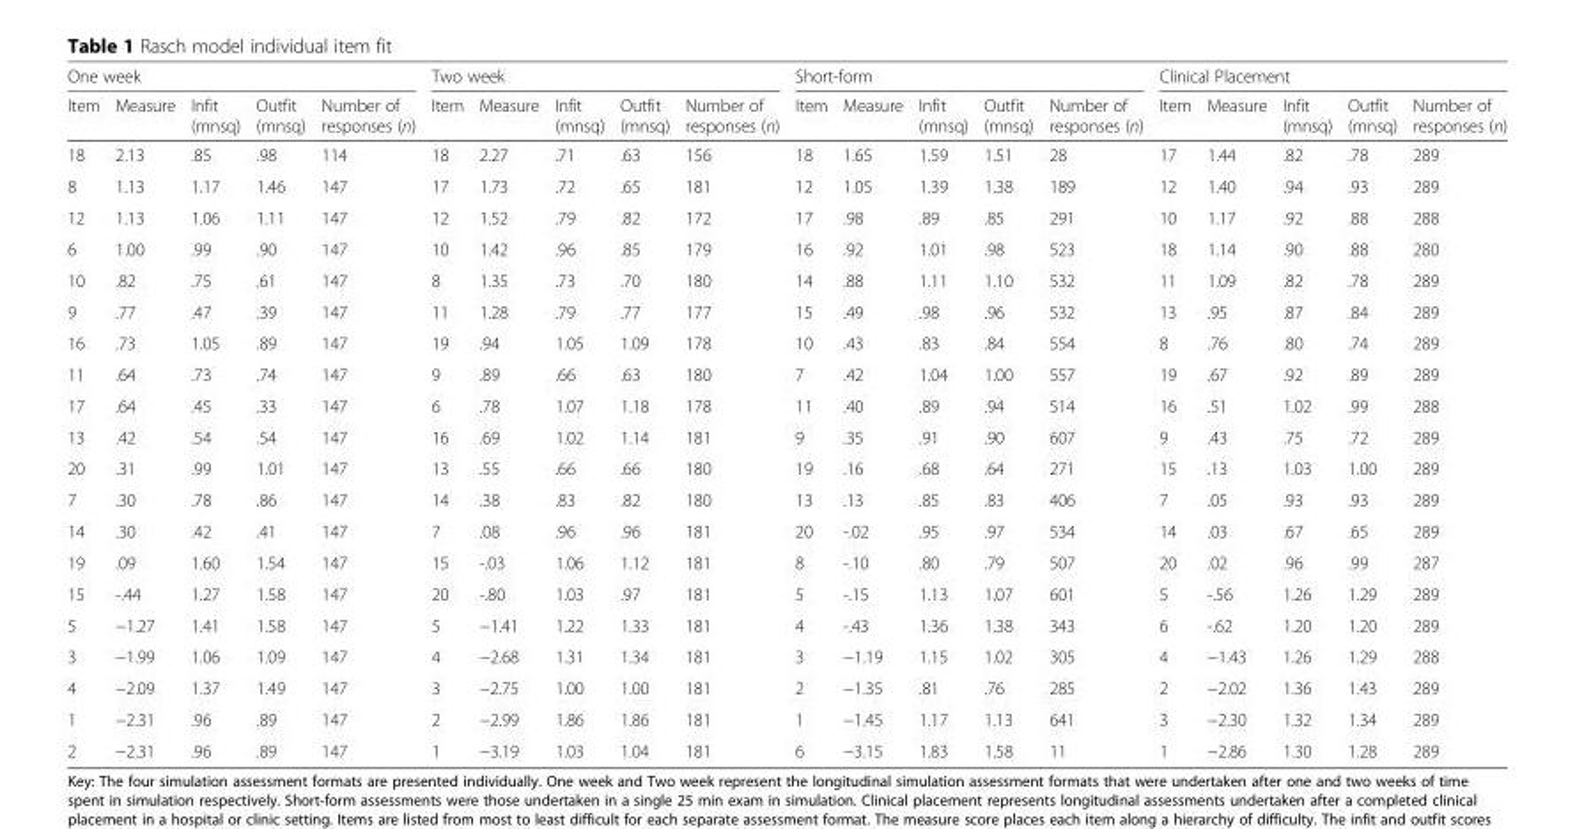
<table><thead><tr><td colspan="5">One week</td><td colspan="5">Two week</td><td colspan="5">Short-form</td><td colspan="5">Clinical Placement</td></tr><tr><td>Item</td><td>Measure</td><td>Infit (mnsq)</td><td>Outfit (mnsq)</td><td>Number of responses (n)</td><td>Item</td><td>Measure</td><td>Infit (mnsq)</td><td>Outfit (mnsq)</td><td>Number of responses (n)</td><td>Item</td><td>Measure</td><td>Infit (mnsq)</td><td>Outfit (mnsq)</td><td>Number of responses (n)</td><td>Item</td><td>Measure</td><td>Infit (mnsq)</td><td>Outfit (mnsq)</td><td>Number of responses (n)</td></tr></thead><tbody><tr><td>18</td><td>2.13</td><td>.85</td><td>.98</td><td>114</td><td>18</td><td>2.27</td><td>.71</td><td>.63</td><td>156</td><td>18</td><td>1.65</td><td>1.59</td><td>1.51</td><td>28</td><td>17</td><td>1.44</td><td>.82</td><td>.78</td><td>289</td></tr><tr><td>8</td><td>1.13</td><td>1.17</td><td>1.46</td><td>147</td><td>17</td><td>1.73</td><td>.72</td><td>.65</td><td>181</td><td>12</td><td>1.05</td><td>1.39</td><td>1.38</td><td>189</td><td>12</td><td>1.40</td><td>.94</td><td>.93</td><td>289</td></tr><tr><td>12</td><td>1.13</td><td>1.06</td><td>1.11</td><td>147</td><td>12</td><td>1.52</td><td>.79</td><td>.82</td><td>172</td><td>17</td><td>.98</td><td>.89</td><td>.85</td><td>291</td><td>10</td><td>1.17</td><td>.92</td><td>.88</td><td>288</td></tr><tr><td>6</td><td>1.00</td><td>.99</td><td>.90</td><td>147</td><td>10</td><td>1.42</td><td>.96</td><td>.85</td><td>179</td><td>16</td><td>.92</td><td>1.01</td><td>.98</td><td>523</td><td>18</td><td>1.14</td><td>.90</td><td>.88</td><td>280</td></tr><tr><td>10</td><td>.82</td><td>.75</td><td>.61</td><td>147</td><td>8</td><td>1.35</td><td>.73</td><td>.70</td><td>180</td><td>14</td><td>.88</td><td>1.11</td><td>1.10</td><td>532</td><td>11</td><td>1.09</td><td>.82</td><td>.78</td><td>289</td></tr><tr><td>9</td><td>.77</td><td>.47</td><td>.39</td><td>147</td><td>11</td><td>1.28</td><td>.79</td><td>.77</td><td>177</td><td>15</td><td>.49</td><td>.98</td><td>.96</td><td>532</td><td>13</td><td>.95</td><td>.87</td><td>.84</td><td>289</td></tr><tr><td>16</td><td>.73</td><td>1.05</td><td>.89</td><td>147</td><td>19</td><td>.94</td><td>1.05</td><td>1.09</td><td>178</td><td>10</td><td>.43</td><td>.83</td><td>.84</td><td>554</td><td>8</td><td>.76</td><td>.80</td><td>.74</td><td>289</td></tr><tr><td>11</td><td>.64</td><td>.73</td><td>.74</td><td>147</td><td>9</td><td>.89</td><td>.66</td><td>.63</td><td>180</td><td>7</td><td>.42</td><td>1.04</td><td>1.00</td><td>557</td><td>19</td><td>.67</td><td>.92</td><td>.89</td><td>289</td></tr><tr><td>17</td><td>.64</td><td>.45</td><td>.33</td><td>147</td><td>6</td><td>.78</td><td>1.07</td><td>1.18</td><td>178</td><td>11</td><td>.40</td><td>.89</td><td>.94</td><td>514</td><td>16</td><td>.51</td><td>1.02</td><td>.99</td><td>288</td></tr><tr><td>13</td><td>.42</td><td>.54</td><td>.54</td><td>147</td><td>16</td><td>.69</td><td>1.02</td><td>1.14</td><td>181</td><td>9</td><td>.35</td><td>.91</td><td>.90</td><td>607</td><td>9</td><td>.43</td><td>.75</td><td>.72</td><td>289</td></tr><tr><td>20</td><td>.31</td><td>.99</td><td>1.01</td><td>147</td><td>13</td><td>.55</td><td>.66</td><td>.66</td><td>180</td><td>19</td><td>.16</td><td>.68</td><td>.64</td><td>271</td><td>15</td><td>.13</td><td>1.03</td><td>1.00</td><td>289</td></tr><tr><td>7</td><td>.30</td><td>.78</td><td>.86</td><td>147</td><td>14</td><td>.38</td><td>.83</td><td>.82</td><td>180</td><td>13</td><td>.13</td><td>.85</td><td>.83</td><td>406</td><td>7</td><td>.05</td><td>.93</td><td>.93</td><td>289</td></tr><tr><td>14</td><td>.30</td><td>.42</td><td>.41</td><td>147</td><td>7</td><td>.08</td><td>.96</td><td>.96</td><td>181</td><td>20</td><td>-.02</td><td>.95</td><td>.97</td><td>534</td><td>14</td><td>.03</td><td>.67</td><td>.65</td><td>289</td></tr><tr><td>19</td><td>.09</td><td>1.60</td><td>1.54</td><td>147</td><td>15</td><td>-.03</td><td>1.06</td><td>1.12</td><td>181</td><td>8</td><td>-.10</td><td>.80</td><td>.79</td><td>507</td><td>20</td><td>.02</td><td>.96</td><td>.99</td><td>287</td></tr><tr><td>15</td><td>-.44</td><td>1.27</td><td>1.58</td><td>147</td><td>20</td><td>-.80</td><td>1.03</td><td>.97</td><td>181</td><td>5</td><td>-.15</td><td>1.13</td><td>1.07</td><td>601</td><td>5</td><td>-.56</td><td>1.26</td><td>1.29</td><td>289</td></tr><tr><td>5</td><td>−1.27</td><td>1.41</td><td>1.58</td><td>147</td><td>5</td><td>−1.41</td><td>1.22</td><td>1.33</td><td>181</td><td>4</td><td>-.43</td><td>1.36</td><td>1.38</td><td>343</td><td>6</td><td>-.62</td><td>1.20</td><td>1.20</td><td>289</td></tr><tr><td>3</td><td>−1.99</td><td>1.06</td><td>1.09</td><td>147</td><td>4</td><td>−2.68</td><td>1.31</td><td>1.34</td><td>181</td><td>3</td><td>−1.19</td><td>1.15</td><td>1.02</td><td>305</td><td>4</td><td>−1.43</td><td>1.26</td><td>1.29</td><td>288</td></tr><tr><td>4</td><td>−2.09</td><td>1.37</td><td>1.49</td><td>147</td><td>3</td><td>−2.75</td><td>1.00</td><td>1.00</td><td>181</td><td>2</td><td>−1.35</td><td>.81</td><td>.76</td><td>285</td><td>2</td><td>−2.02</td><td>1.36</td><td>1.43</td><td>289</td></tr><tr><td>1</td><td>−2.31</td><td>.96</td><td>.89</td><td>147</td><td>2</td><td>−2.99</td><td>1.86</td><td>1.86</td><td>181</td><td>1</td><td>−1.45</td><td>1.17</td><td>1.13</td><td>641</td><td>3</td><td>−2.30</td><td>1.32</td><td>1.34</td><td>289</td></tr><tr><td>2</td><td>−2.31</td><td>.96</td><td>.89</td><td>147</td><td>1</td><td>−3.19</td><td>1.03</td><td>1.04</td><td>181</td><td>6</td><td>−3.15</td><td>1.83</td><td>1.58</td><td>11</td><td>1</td><td>−2.86</td><td>1.30</td><td>1.28</td><td>289</td></tr></tbody></table>